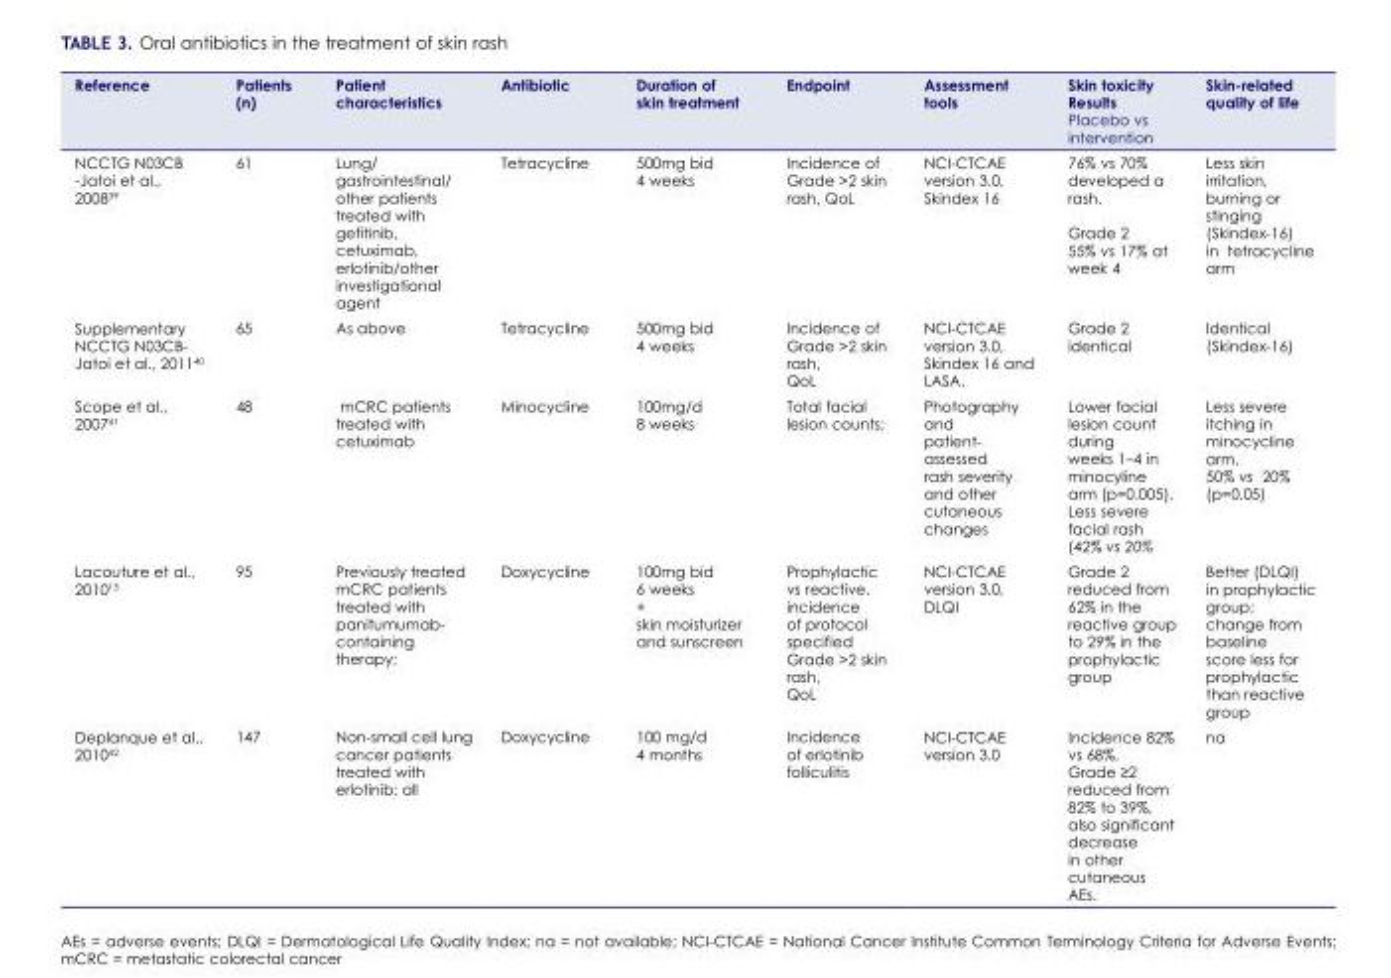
<table><thead><tr><td>Reference</td><td>Patients (n)</td><td>Patient characteristics</td><td>Antibiotic</td><td>Duration of skin treatment</td><td>Endpoint</td><td>Assessment tools</td><td>Skin toxicity Results Placebo vs intervention</td><td>Skin-related quality of life</td></tr></thead><tbody><tr><td>NCCTG N03CB -Jatoi et al., 2008<sup>39</sup></td><td>61</td><td>Lung/ gastrointestinal/ other patients treated with gefitinib, cetuximab, erlotinib/other investigational agent</td><td>Tetracycline</td><td>500mg bid 4 weeks</td><td>Incidence of Grade &gt;2 skin rash, QoL</td><td>NCI-CTCAE version 3.0, Skindex 16</td><td>76% vs 70% developed a rash. Grade 2 55% vs 17% at week 4</td><td>Less skin irritation, burning or stinging (Skindex-16) in tetracycline arm</td></tr><tr><td>Supplementary NCCTG N03CB- Jatoi et al., 2011<sup>40</sup></td><td>65</td><td>As above</td><td>Tetracycline</td><td>500mg bid 4 weeks</td><td>Incidence of Grade &gt;2 skin rash, QoL</td><td>NCI-CTCAE version 3.0, Skindex 16 and LASA.</td><td>Grade 2 identical</td><td>Identical (Skindex-16)</td></tr><tr><td>Scope et al., 2007<sup>41</sup></td><td>48</td><td>mCRC patients treated with cetuximab</td><td>Minocycline</td><td>100mg/d 8 weeks</td><td>Total facial lesion counts;</td><td>Photography and patient- assessed rash severity and other cutaneous changes</td><td>Lower facial lesion count during weeks 1–4 in minocyline arm (p=0.005), Less severe facial rash (42% vs 20%</td><td>Less severe itching in minocycline arm, 50% vs 20% (p=0.05)</td></tr><tr><td>Lacouture et al., 2010<sup>15</sup></td><td>95</td><td>Previously treated mCRC patients treated with panitumumab- containing therapy;</td><td>Doxycycline</td><td>100mg bid 6 weeks + skin moisturizer and sunscreen</td><td>Prophylactic vs reactive. incidence of protocol specified Grade &gt;2 skin rash, QoL</td><td>NCI-CTCAE version 3.0, DLQI</td><td>Grade 2 reduced from 62% in the reactive group to 29% in the prophylactic group</td><td>Better (DLQI) in prophylactic group; change from baseline score less for prophylactic than reactive group</td></tr><tr><td>Deplanque et al., 2010<sup>42</sup></td><td>147</td><td>Non-small cell lung cancer patients treated with erlotinib; all</td><td>Doxycycline</td><td>100 mg/d 4 months</td><td>Incidence of erlotinib folliculitis</td><td>NCI-CTCAE version 3.0</td><td>Incidence 82% vs 68%, Grade ≥2 reduced from 82% to 39%, also significant decrease in other cutaneous AEs.</td><td>na</td></tr></tbody></table>